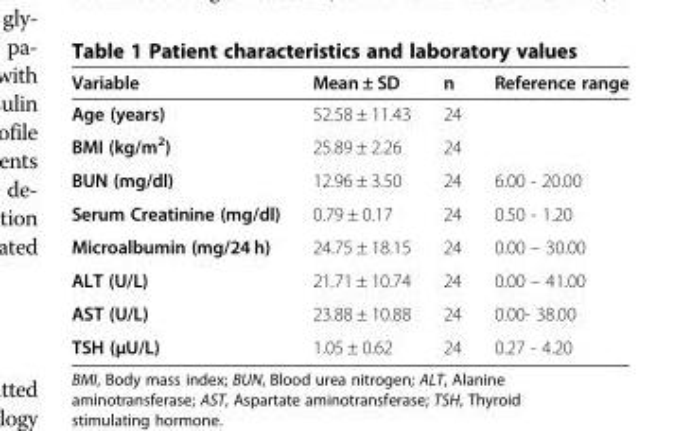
<table><thead><tr><td>Variable</td><td>Mean ± SD</td><td>n</td><td>Reference range</td></tr></thead><tbody><tr><td>Age (years)</td><td>52.58 ± 11.43</td><td>24</td><td></td></tr><tr><td>BMI (kg/m<sup>2</sup>)</td><td>25.89 ± 2.26</td><td>24</td><td></td></tr><tr><td>BUN (mg/dl)</td><td>12.96 ± 3.50</td><td>24</td><td>6.00 - 20.00</td></tr><tr><td>Serum Creatinine (mg/dl)</td><td>0.79 ± 0.17</td><td>24</td><td>0.50 - 1.20</td></tr><tr><td>Microalbumin (mg/24 h)</td><td>24.75 ± 18.15</td><td>24</td><td>0.00 – 30.00</td></tr><tr><td>ALT (U/L)</td><td>21.71 ± 10.74</td><td>24</td><td>0.00 – 41.00</td></tr><tr><td>AST (U/L)</td><td>23.88 ± 10.88</td><td>24</td><td>0.00- 38.00</td></tr><tr><td>TSH (μU/L)</td><td>1.05 ± 0.62</td><td>24</td><td>0.27 - 4.20</td></tr></tbody></table>